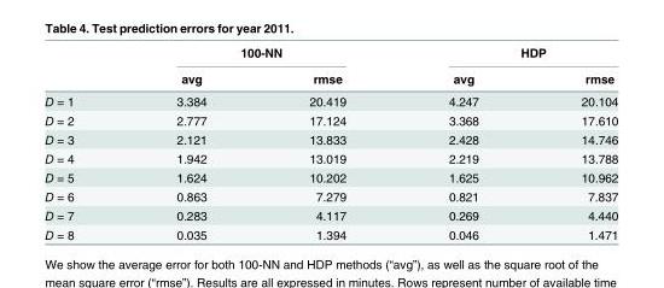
<table><thead><tr><td rowspan="2"></td><td colspan="2">100-NN</td><td colspan="2">HDP</td></tr><tr><td>avg</td><td>rmse</td><td>avg</td><td>rmse</td></tr></thead><tbody><tr><td>D = 1</td><td>3.384</td><td>20.419</td><td>4.247</td><td>20.104</td></tr><tr><td>D = 2</td><td>2.777</td><td>17.124</td><td>3.368</td><td>17.610</td></tr><tr><td>D = 3</td><td>2.121</td><td>13.833</td><td>2.428</td><td>14.746</td></tr><tr><td>D = 4</td><td>1.942</td><td>13.019</td><td>2.219</td><td>13.788</td></tr><tr><td>D = 5</td><td>1.624</td><td>10.202</td><td>1.625</td><td>10.962</td></tr><tr><td>D = 6</td><td>0.863</td><td>7.279</td><td>0.821</td><td>7.837</td></tr><tr><td>D = 7</td><td>0.283</td><td>4.117</td><td>0.269</td><td>4.440</td></tr><tr><td>D = 8</td><td>0.035</td><td>1.394</td><td>0.046</td><td>1.471</td></tr></tbody></table>